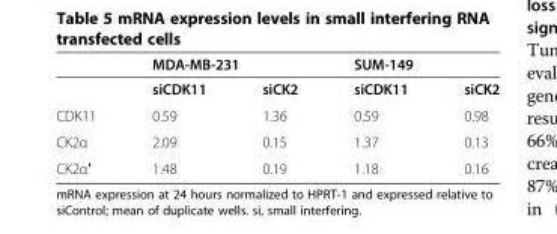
<table><thead><tr><td rowspan="2"></td><td colspan="2">MDA-MB-231</td><td colspan="2">SUM-149</td></tr><tr><td>siCDK11</td><td>siCK2</td><td>siCDK11</td><td>siCK2</td></tr></thead><tbody><tr><td>CDK11</td><td>0.59</td><td>1.36</td><td>0.59</td><td>0.98</td></tr><tr><td>CK2α</td><td>2.09</td><td>0.15</td><td>1.37</td><td>0.13</td></tr><tr><td>CK2α′</td><td>1.48</td><td>0.19</td><td>1.18</td><td>0.16</td></tr></tbody></table>